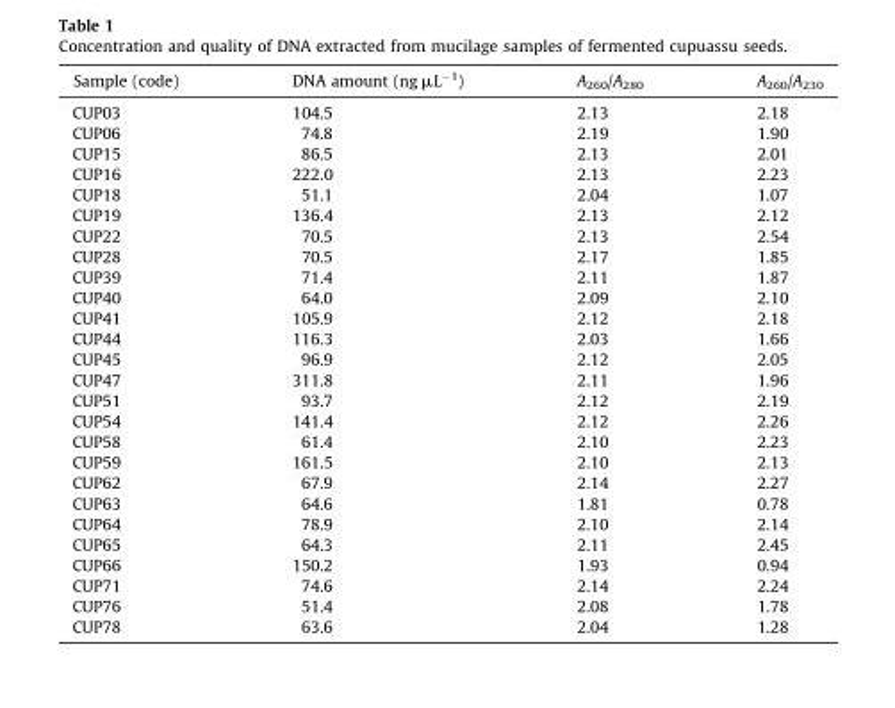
<table><thead><tr><td>Sample (code)</td><td>DNA amount (ng μL<sup>−1</sup>)</td><td>A<sub>260</sub>/A<sub>280</sub></td><td>A<sub>260</sub>/A<sub>230</sub></td></tr></thead><tbody><tr><td>CUP03</td><td>104.5</td><td>2.13</td><td>2.18</td></tr><tr><td>CUP06</td><td>74.8</td><td>2.19</td><td>1.90</td></tr><tr><td>CUP15</td><td>86.5</td><td>2.13</td><td>2.01</td></tr><tr><td>CUP16</td><td>222.0</td><td>2.13</td><td>2.23</td></tr><tr><td>CUP18</td><td>51.1</td><td>2.04</td><td>1.07</td></tr><tr><td>CUP19</td><td>136.4</td><td>2.13</td><td>2.12</td></tr><tr><td>CUP22</td><td>70.5</td><td>2.13</td><td>2.54</td></tr><tr><td>CUP28</td><td>70.5</td><td>2.17</td><td>1.85</td></tr><tr><td>CUP39</td><td>71.4</td><td>2.11</td><td>1.87</td></tr><tr><td>CUP40</td><td>64.0</td><td>2.09</td><td>2.10</td></tr><tr><td>CUP41</td><td>105.9</td><td>2.12</td><td>2.18</td></tr><tr><td>CUP44</td><td>116.3</td><td>2.03</td><td>1.66</td></tr><tr><td>CUP45</td><td>96.9</td><td>2.12</td><td>2.05</td></tr><tr><td>CUP47</td><td>311.8</td><td>2.11</td><td>1.96</td></tr><tr><td>CUP51</td><td>93.7</td><td>2.12</td><td>2.19</td></tr><tr><td>CUP54</td><td>141.4</td><td>2.12</td><td>2.26</td></tr><tr><td>CUP58</td><td>61.4</td><td>2.10</td><td>2.23</td></tr><tr><td>CUP59</td><td>161.5</td><td>2.10</td><td>2.13</td></tr><tr><td>CUP62</td><td>67.9</td><td>2.14</td><td>2.27</td></tr><tr><td>CUP63</td><td>64.6</td><td>1.81</td><td>0.78</td></tr><tr><td>CUP64</td><td>78.9</td><td>2.10</td><td>2.14</td></tr><tr><td>CUP65</td><td>64.3</td><td>2.11</td><td>2.45</td></tr><tr><td>CUP66</td><td>150.2</td><td>1.93</td><td>0.94</td></tr><tr><td>CUP71</td><td>74.6</td><td>2.14</td><td>2.24</td></tr><tr><td>CUP76</td><td>51.4</td><td>2.08</td><td>1.78</td></tr><tr><td>CUP78</td><td>63.6</td><td>2.04</td><td>1.28</td></tr></tbody></table>